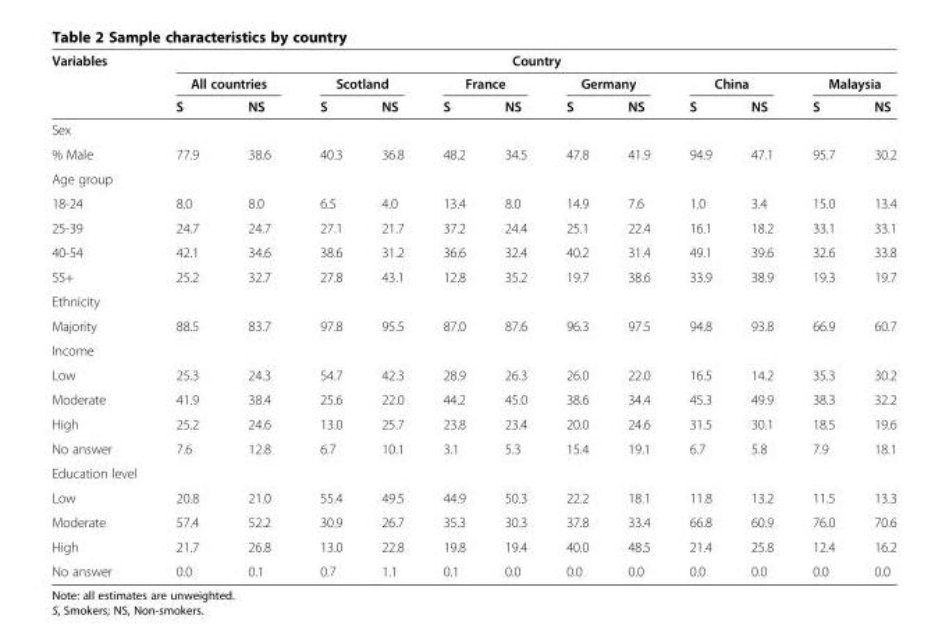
<table><thead><tr><td rowspan="3">Variables</td><td colspan="12">Country</td></tr><tr><td colspan="2">All countries</td><td colspan="2">Scotland</td><td colspan="2">France</td><td colspan="2">Germany</td><td colspan="2">China</td><td colspan="2">Malaysia</td></tr><tr><td>S</td><td>NS</td><td>S</td><td>NS</td><td>S</td><td>NS</td><td>S</td><td>NS</td><td>S</td><td>NS</td><td>S</td><td>NS</td></tr></thead><tbody><tr><td colspan="13">Sex</td></tr><tr><td>% Male</td><td>77.9</td><td>38.6</td><td>40.3</td><td>36.8</td><td>48.2</td><td>34.5</td><td>47.8</td><td>41.9</td><td>94.9</td><td>47.1</td><td>95.7</td><td>30.2</td></tr><tr><td colspan="13">Age group</td></tr><tr><td>18-24</td><td>8.0</td><td>8.0</td><td>6.5</td><td>4.0</td><td>13.4</td><td>8.0</td><td>14.9</td><td>7.6</td><td>1.0</td><td>3.4</td><td>15.0</td><td>13.4</td></tr><tr><td>25-39</td><td>24.7</td><td>24.7</td><td>27.1</td><td>21.7</td><td>37.2</td><td>24.4</td><td>25.1</td><td>22.4</td><td>16.1</td><td>18.2</td><td>33.1</td><td>33.1</td></tr><tr><td>40-54</td><td>42.1</td><td>34.6</td><td>38.6</td><td>31.2</td><td>36.6</td><td>32.4</td><td>40.2</td><td>31.4</td><td>49.1</td><td>39.6</td><td>32.6</td><td>33.8</td></tr><tr><td>55+</td><td>25.2</td><td>32.7</td><td>27.8</td><td>43.1</td><td>12.8</td><td>35.2</td><td>19.7</td><td>38.6</td><td>33.9</td><td>38.9</td><td>19.3</td><td>19.7</td></tr><tr><td colspan="13">Ethnicity</td></tr><tr><td>Majority</td><td>88.5</td><td>83.7</td><td>97.8</td><td>95.5</td><td>87.0</td><td>87.6</td><td>96.3</td><td>97.5</td><td>94.8</td><td>93.8</td><td>66.9</td><td>60.7</td></tr><tr><td colspan="13">Income</td></tr><tr><td>Low</td><td>25.3</td><td>24.3</td><td>54.7</td><td>42.3</td><td>28.9</td><td>26.3</td><td>26.0</td><td>22.0</td><td>16.5</td><td>14.2</td><td>35.3</td><td>30.2</td></tr><tr><td>Moderate</td><td>41.9</td><td>38.4</td><td>25.6</td><td>22.0</td><td>44.2</td><td>45.0</td><td>38.6</td><td>34.4</td><td>45.3</td><td>49.9</td><td>38.3</td><td>32.2</td></tr><tr><td>High</td><td>25.2</td><td>24.6</td><td>13.0</td><td>25.7</td><td>23.8</td><td>23.4</td><td>20.0</td><td>24.6</td><td>31.5</td><td>30.1</td><td>18.5</td><td>19.6</td></tr><tr><td>No answer</td><td>7.6</td><td>12.8</td><td>6.7</td><td>10.1</td><td>3.1</td><td>5.3</td><td>15.4</td><td>19.1</td><td>6.7</td><td>5.8</td><td>7.9</td><td>18.1</td></tr><tr><td colspan="13">Education level</td></tr><tr><td>Low</td><td>20.8</td><td>21.0</td><td>55.4</td><td>49.5</td><td>44.9</td><td>50.3</td><td>22.2</td><td>18.1</td><td>11.8</td><td>13.2</td><td>11.5</td><td>13.3</td></tr><tr><td>Moderate</td><td>57.4</td><td>52.2</td><td>30.9</td><td>26.7</td><td>35.3</td><td>30.3</td><td>37.8</td><td>33.4</td><td>66.8</td><td>60.9</td><td>76.0</td><td>70.6</td></tr><tr><td>High</td><td>21.7</td><td>26.8</td><td>13.0</td><td>22.8</td><td>19.8</td><td>19.4</td><td>40.0</td><td>48.5</td><td>21.4</td><td>25.8</td><td>12.4</td><td>16.2</td></tr><tr><td>No answer</td><td>0.0</td><td>0.1</td><td>0.7</td><td>1.1</td><td>0.1</td><td>0.0</td><td>0.0</td><td>0.0</td><td>0.0</td><td>0.0</td><td>0.0</td><td>0.0</td></tr></tbody></table>